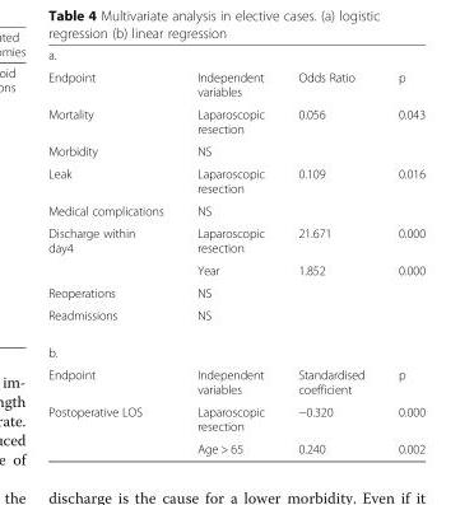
<table><tbody><tr><td colspan="4">a.</td></tr><tr><td>Endpoint</td><td>Independent variables</td><td>Odds Ratio</td><td>p</td></tr><tr><td>Mortality</td><td>Laparoscopic resection</td><td>0.056</td><td>0.043</td></tr><tr><td>Morbidity</td><td>NS</td><td></td><td></td></tr><tr><td>Leak</td><td>Laparoscopic resection</td><td>0.109</td><td>0.016</td></tr><tr><td>Medical complications</td><td>NS</td><td></td><td></td></tr><tr><td rowspan="2">Discharge within day4</td><td>Laparoscopic resection</td><td>21.671</td><td>0.000</td></tr><tr><td>Year</td><td>1.852</td><td>0.000</td></tr><tr><td>Reoperations</td><td>NS</td><td></td><td></td></tr><tr><td>Readmissions</td><td>NS</td><td></td><td></td></tr><tr><td colspan="4">b.</td></tr><tr><td>Endpoint</td><td>Independent variables</td><td>Standardised coefficient</td><td>p</td></tr><tr><td rowspan="2">Postoperative LOS</td><td>Laparoscopic resection</td><td>−0.320</td><td>0.000</td></tr><tr><td>Age &gt; 65</td><td>0.240</td><td>0.002</td></tr></tbody></table>